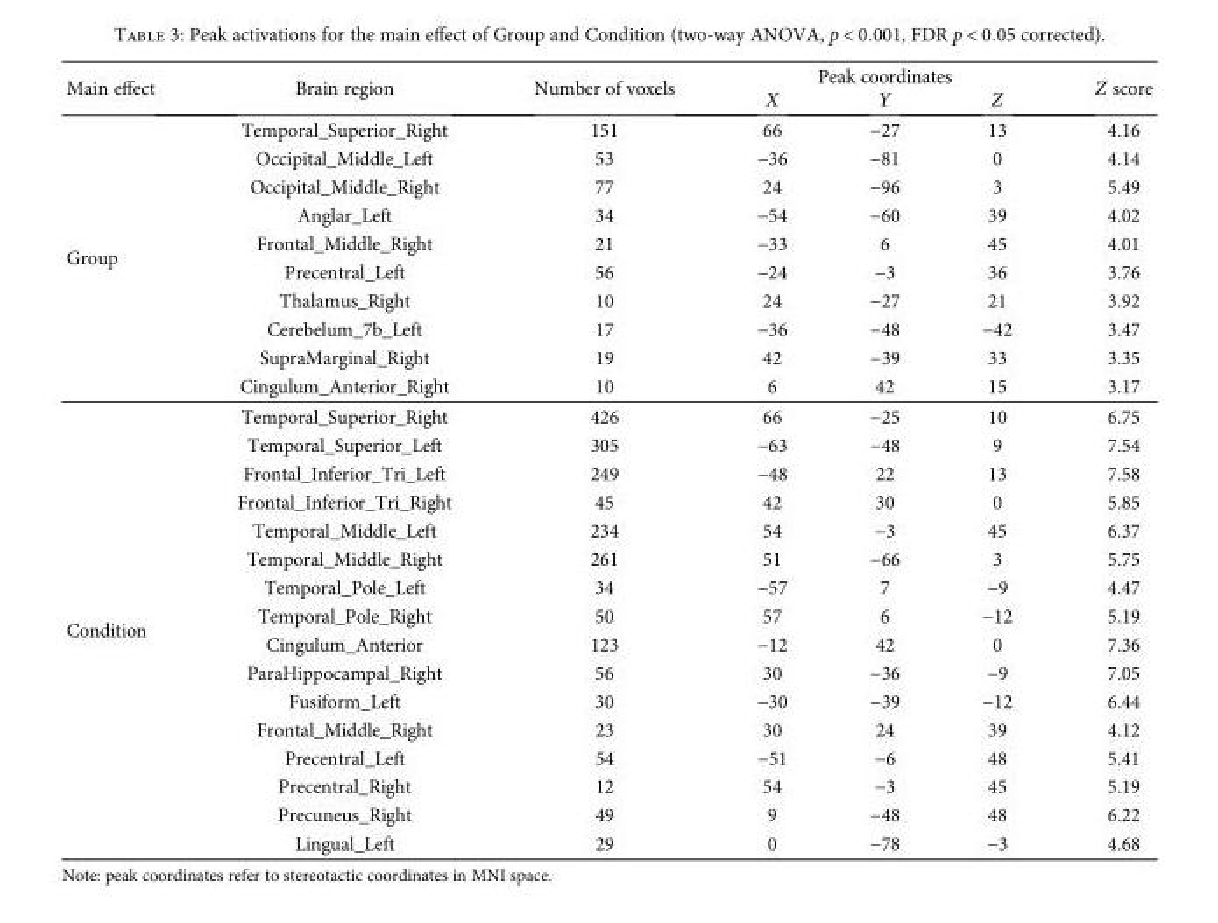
<table><thead><tr><td rowspan="2">Main effect</td><td rowspan="2">Brain region</td><td rowspan="2">Number of voxels</td><td colspan="3">Peak coordinates</td><td rowspan="2">Z score</td></tr><tr><td>X</td><td>Y</td><td>Z</td></tr></thead><tbody><tr><td rowspan="10">Group</td><td>Temporal_Superior_Right</td><td>151</td><td>66</td><td>−27</td><td>13</td><td>4.16</td></tr><tr><td>Occipital_Middle_Left</td><td>53</td><td>−36</td><td>−81</td><td>0</td><td>4.14</td></tr><tr><td>Occipital_Middle_Right</td><td>77</td><td>24</td><td>−96</td><td>3</td><td>5.49</td></tr><tr><td>Anglar_Left</td><td>34</td><td>−54</td><td>−60</td><td>39</td><td>4.02</td></tr><tr><td>Frontal_Middle_Right</td><td>21</td><td>−33</td><td>6</td><td>45</td><td>4.01</td></tr><tr><td>Precentral_Left</td><td>56</td><td>−24</td><td>−3</td><td>36</td><td>3.76</td></tr><tr><td>Thalamus_Right</td><td>10</td><td>24</td><td>−27</td><td>21</td><td>3.92</td></tr><tr><td>Cerebelum_7b_Left</td><td>17</td><td>−36</td><td>−48</td><td>−42</td><td>3.47</td></tr><tr><td>SupraMarginal_Right</td><td>19</td><td>42</td><td>−39</td><td>33</td><td>3.35</td></tr><tr><td>Cingulum_Anterior_Right</td><td>10</td><td>6</td><td>42</td><td>15</td><td>3.17</td></tr><tr><td rowspan="16">Condition</td><td>Temporal_Superior_Right</td><td>426</td><td>66</td><td>−25</td><td>10</td><td>6.75</td></tr><tr><td>Temporal_Superior_Left</td><td>305</td><td>−63</td><td>−48</td><td>9</td><td>7.54</td></tr><tr><td>Frontal_Inferior_Tri_Left</td><td>249</td><td>−48</td><td>22</td><td>13</td><td>7.58</td></tr><tr><td>Frontal_Inferior_Tri_Right</td><td>45</td><td>42</td><td>30</td><td>0</td><td>5.85</td></tr><tr><td>Temporal_Middle_Left</td><td>234</td><td>54</td><td>−3</td><td>45</td><td>6.37</td></tr><tr><td>Temporal_Middle_Right</td><td>261</td><td>51</td><td>−66</td><td>3</td><td>5.75</td></tr><tr><td>Temporal_Pole_Left</td><td>34</td><td>−57</td><td>7</td><td>−9</td><td>4.47</td></tr><tr><td>Temporal_Pole_Right</td><td>50</td><td>57</td><td>6</td><td>−12</td><td>5.19</td></tr><tr><td>Cingulum_Anterior</td><td>123</td><td>−12</td><td>42</td><td>0</td><td>7.36</td></tr><tr><td>ParaHippocampal_Right</td><td>56</td><td>30</td><td>−36</td><td>−9</td><td>7.05</td></tr><tr><td>Fusiform_Left</td><td>30</td><td>−30</td><td>−39</td><td>−12</td><td>6.44</td></tr><tr><td>Frontal_Middle_Right</td><td>23</td><td>30</td><td>24</td><td>39</td><td>4.12</td></tr><tr><td>Precentral_Left</td><td>54</td><td>−51</td><td>−6</td><td>48</td><td>5.41</td></tr><tr><td>Precentral_Right</td><td>12</td><td>54</td><td>−3</td><td>45</td><td>5.19</td></tr><tr><td>Precuneus_Right</td><td>49</td><td>9</td><td>−48</td><td>48</td><td>6.22</td></tr><tr><td>Lingual_Left</td><td>29</td><td>0</td><td>−78</td><td>−3</td><td>4.68</td></tr></tbody></table>